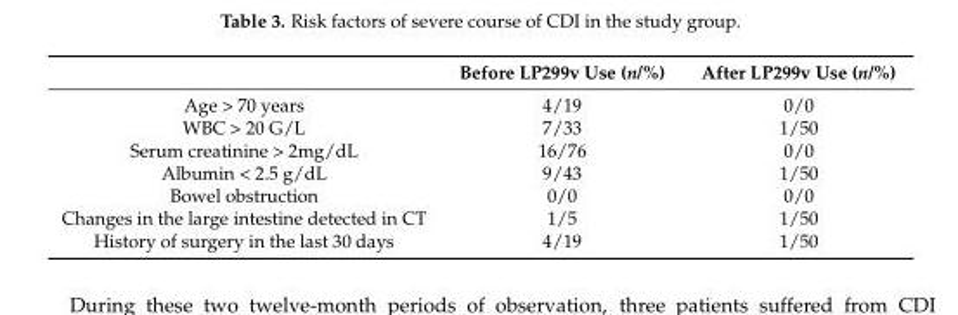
<table><thead><tr><td></td><td>Before LP299v Use (n/%)</td><td>After LP299v Use (n/%)</td></tr></thead><tbody><tr><td>Age &gt; 70 years</td><td>4/19</td><td>0/0</td></tr><tr><td>WBC &gt; 20 G/L</td><td>7/33</td><td>1/50</td></tr><tr><td>Serum creatinine &gt; 2mg/dL</td><td>16/76</td><td>0/0</td></tr><tr><td>Albumin &lt; 2.5 g/dL</td><td>9/43</td><td>1/50</td></tr><tr><td>Bowel obstruction</td><td>0/0</td><td>0/0</td></tr><tr><td>Changes in the large intestine detected in CT</td><td>1/5</td><td>1/50</td></tr><tr><td>History of surgery in the last 30 days</td><td>4/19</td><td>1/50</td></tr></tbody></table>